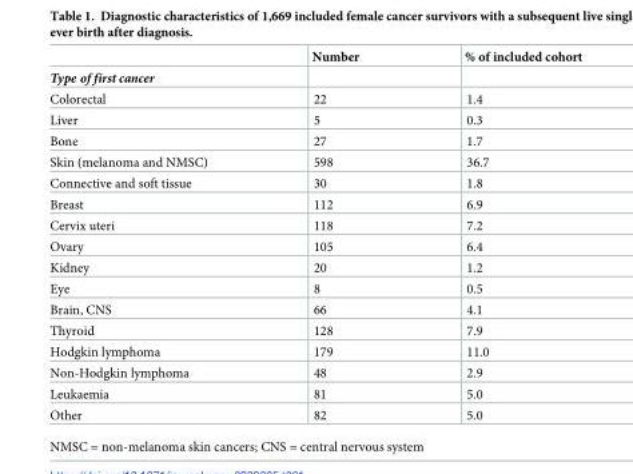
<table><thead><tr><td></td><td>Number</td><td>% of included cohort</td></tr></thead><tbody><tr><td colspan="3">Type of first cancer</td></tr><tr><td>Colorectal</td><td>22</td><td>1.4</td></tr><tr><td>Liver</td><td>5</td><td>0.3</td></tr><tr><td>Bone</td><td>27</td><td>1.7</td></tr><tr><td>Skin (melanoma and NMSC)</td><td>598</td><td>36.7</td></tr><tr><td>Connective and soft tissue</td><td>30</td><td>1.8</td></tr><tr><td>Breast</td><td>112</td><td>6.9</td></tr><tr><td>Cervix uteri</td><td>118</td><td>7.2</td></tr><tr><td>Ovary</td><td>105</td><td>6.4</td></tr><tr><td>Kidney</td><td>20</td><td>1.2</td></tr><tr><td>Eye</td><td>8</td><td>0.5</td></tr><tr><td>Brain, CNS</td><td>66</td><td>4.1</td></tr><tr><td>Thyroid</td><td>128</td><td>7.9</td></tr><tr><td>Hodgkin lymphoma</td><td>179</td><td>11.0</td></tr><tr><td>Non-Hodgkin lymphoma</td><td>48</td><td>2.9</td></tr><tr><td>Leukaemia</td><td>81</td><td>5.0</td></tr><tr><td>Other</td><td>82</td><td>5.0</td></tr></tbody></table>